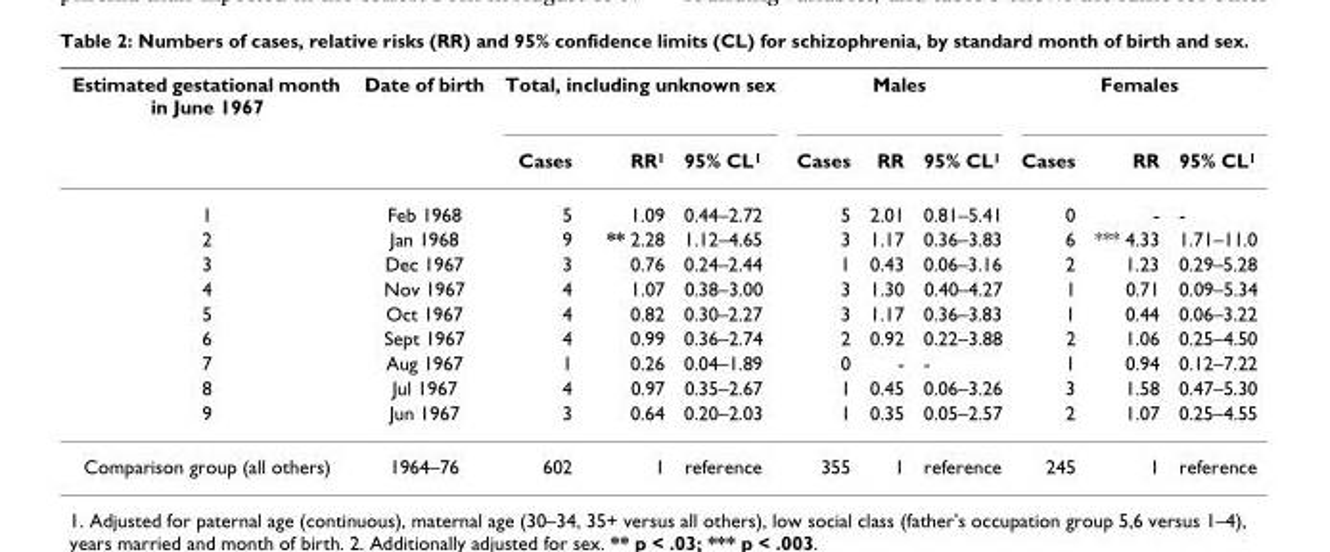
<table><thead><tr><td rowspan="2">Estimated gestational month in June 1967</td><td rowspan="2">Date of birth</td><td colspan="3">Total, including unknown sex</td><td colspan="3">Males</td><td colspan="3">Females</td></tr><tr><td>Cases</td><td>RR<sup>1</sup></td><td>95% CL<sup>1</sup></td><td>Cases</td><td>RR</td><td>95% CL<sup>1</sup></td><td>Cases</td><td>RR</td><td>95% CL<sup>1</sup></td></tr></thead><tbody><tr><td>1</td><td>Feb 1968</td><td>5</td><td>1.09</td><td>0.44–2.72</td><td>5</td><td>2.01</td><td>0.81–5.41</td><td>0</td><td>-</td><td>-</td></tr><tr><td>2</td><td>Jan 1968</td><td>9</td><td>** 2.28</td><td>1.12–4.65</td><td>3</td><td>1.17</td><td>0.36–3.83</td><td>6</td><td>*** 4.33</td><td>1.71–11.0</td></tr><tr><td>3</td><td>Dec 1967</td><td>3</td><td>0.76</td><td>0.24–2.44</td><td>1</td><td>0.43</td><td>0.06–3.16</td><td>2</td><td>1.23</td><td>0.29–5.28</td></tr><tr><td>4</td><td>Nov 1967</td><td>4</td><td>1.07</td><td>0.38–3.00</td><td>3</td><td>1.30</td><td>0.40–4.27</td><td>1</td><td>0.71</td><td>0.09–5.34</td></tr><tr><td>5</td><td>Oct 1967</td><td>4</td><td>0.82</td><td>0.30–2.27</td><td>3</td><td>1.17</td><td>0.36–3.83</td><td>1</td><td>0.44</td><td>0.06–3.22</td></tr><tr><td>6</td><td>Sept 1967</td><td>4</td><td>0.99</td><td>0.36–2.74</td><td>2</td><td>0.92</td><td>0.22–3.88</td><td>2</td><td>1.06</td><td>0.25–4.50</td></tr><tr><td>7</td><td>Aug 1967</td><td>1</td><td>0.26</td><td>0.04–1.89</td><td>0</td><td>-</td><td>-</td><td>1</td><td>0.94</td><td>0.12–7.22</td></tr><tr><td>8</td><td>Jul 1967</td><td>4</td><td>0.97</td><td>0.35–2.67</td><td>1</td><td>0.45</td><td>0.06–3.26</td><td>3</td><td>1.58</td><td>0.47–5.30</td></tr><tr><td>9</td><td>Jun 1967</td><td>3</td><td>0.64</td><td>0.20–2.03</td><td>1</td><td>0.35</td><td>0.05–2.57</td><td>2</td><td>1.07</td><td>0.25–4.55</td></tr><tr><td>Comparison group (all others)</td><td>1964–76</td><td>602</td><td>1</td><td>reference</td><td>355</td><td>1</td><td>reference</td><td>245</td><td>1</td><td>reference</td></tr></tbody></table>